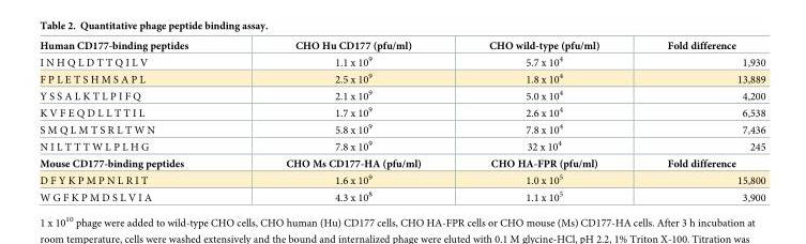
<table><tbody><tr><td>Human CD177-binding peptides</td><td>CHO Hu CD177 (pfu/ml)</td><td>CHO wild-type (pfu/ml)</td><td>Fold difference</td></tr><tr><td>I N H Q L D T T Q I L V</td><td>1.1 x 10<sup>9</sup></td><td>5.7 x 10<sup>4</sup></td><td>1,930</td></tr><tr><td>F P L E T S H M S A P L</td><td>2.5 x 10<sup>9</sup></td><td>1.8 x 10<sup>4</sup></td><td>13,889</td></tr><tr><td>Y S S A L K T L P I F Q</td><td>2.1 x 10<sup>9</sup></td><td>5.0 x 10<sup>4</sup></td><td>4,200</td></tr><tr><td>K V F E Q D L L T T I L</td><td>1.7 x 10<sup>9</sup></td><td>2.6 x 10<sup>4</sup></td><td>6,538</td></tr><tr><td>S M Q L M T S R L T W N</td><td>5.8 x 10<sup>9</sup></td><td>7.8 x 10<sup>4</sup></td><td>7,436</td></tr><tr><td>N I L T T T W L P L H G</td><td>7.8 x 10<sup>9</sup></td><td>32 x 10<sup>4</sup></td><td>245</td></tr><tr><td>Mouse CD177-binding peptides</td><td>CHO Ms CD177-HA (pfu/ml)</td><td>CHO HA-FPR (pfu/ml)</td><td>Fold difference</td></tr><tr><td>D F Y K P M P N L R I T</td><td>1.6 x 10<sup>9</sup></td><td>1.0 x 10<sup>5</sup></td><td>15,800</td></tr><tr><td>W G F K P M D S L V I A</td><td>4.3 x 10<sup>8</sup></td><td>1.1 x 10<sup>5</sup></td><td>3,900</td></tr></tbody></table>